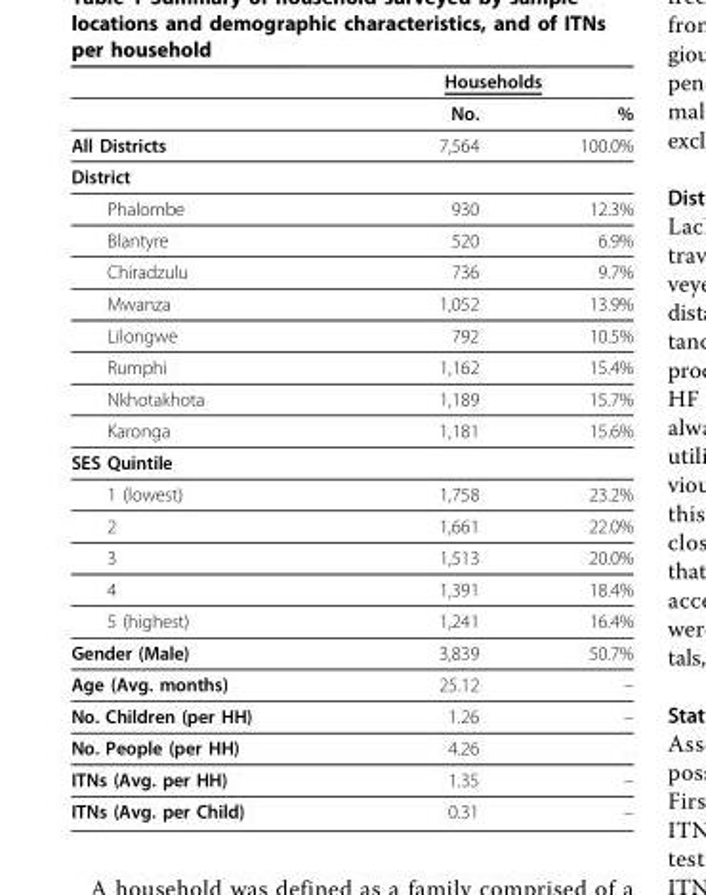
<table><thead><tr><td rowspan="2"></td><td colspan="2">Households</td></tr><tr><td>No.</td><td>%</td></tr></thead><tbody><tr><td>All Districts</td><td>7,564</td><td>100.0%</td></tr><tr><td colspan="3">District</td></tr><tr><td>Phalombe</td><td>930</td><td>12.3%</td></tr><tr><td>Blantyre</td><td>520</td><td>6.9%</td></tr><tr><td>Chiradzulu</td><td>736</td><td>9.7%</td></tr><tr><td>Mwanza</td><td>1,052</td><td>13.9%</td></tr><tr><td>Lilongwe</td><td>792</td><td>10.5%</td></tr><tr><td>Rumphi</td><td>1,162</td><td>15.4%</td></tr><tr><td>Nkhotakhota</td><td>1,189</td><td>15.7%</td></tr><tr><td>Karonga</td><td>1,181</td><td>15.6%</td></tr><tr><td colspan="3">SES Quintile</td></tr><tr><td>1 (lowest)</td><td>1,758</td><td>23.2%</td></tr><tr><td>2</td><td>1,661</td><td>22.0%</td></tr><tr><td>3</td><td>1,513</td><td>20.0%</td></tr><tr><td>4</td><td>1,391</td><td>18.4%</td></tr><tr><td>5 (highest)</td><td>1,241</td><td>16.4%</td></tr><tr><td>Gender (Male)</td><td>3,839</td><td>50.7%</td></tr><tr><td>Age (Avg. months)</td><td>25.12</td><td>–</td></tr><tr><td>No. Children (per HH)</td><td>1.26</td><td>–</td></tr><tr><td>No. People (per HH)</td><td>4.26</td><td></td></tr><tr><td>ITNs (Avg. per HH)</td><td>1.35</td><td>–</td></tr><tr><td>ITNs (Avg. per Child)</td><td>0.31</td><td>–</td></tr></tbody></table>